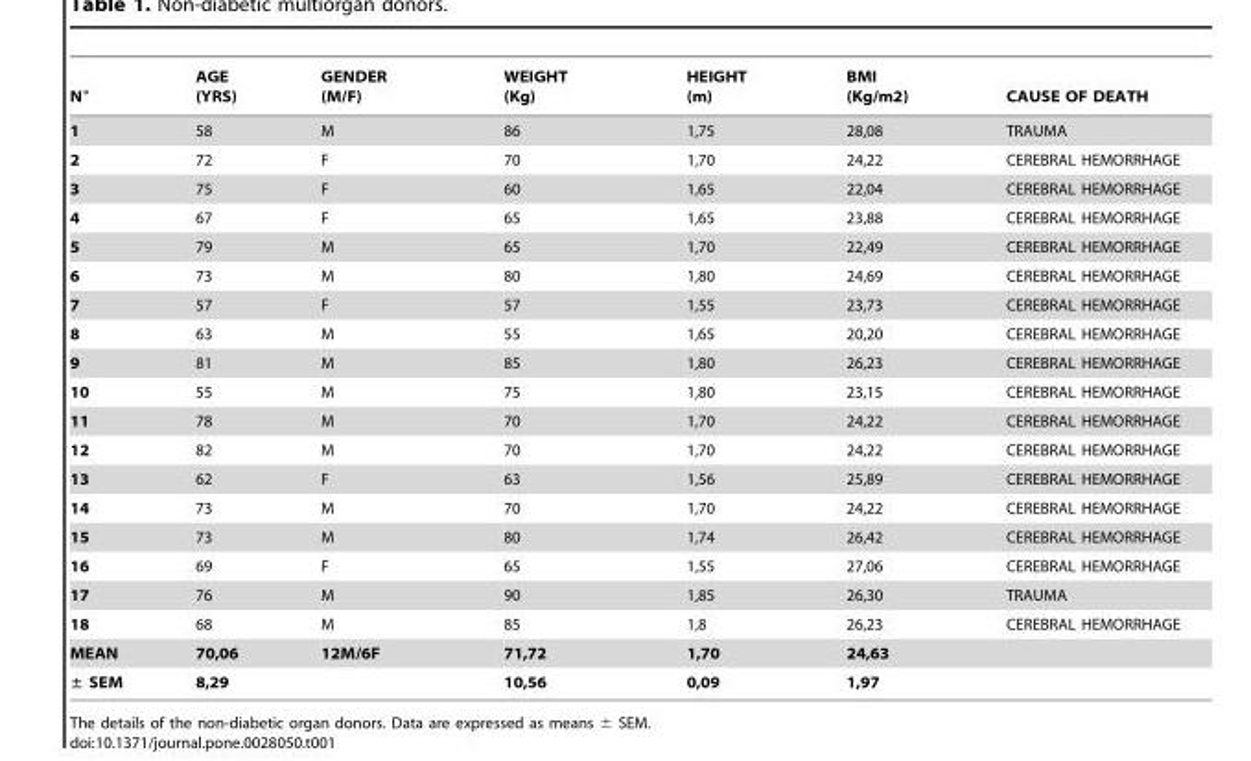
<table><thead><tr><td>N°</td><td>AGE (YRS)</td><td>GENDER (M/F)</td><td>WEIGHT (Kg)</td><td>HEIGHT (m)</td><td>BMI (Kg/m2)</td><td>CAUSE OF DEATH</td></tr></thead><tbody><tr><td>1</td><td>58</td><td>M</td><td>86</td><td>1,75</td><td>28,08</td><td>TRAUMA</td></tr><tr><td>2</td><td>72</td><td>F</td><td>70</td><td>1,70</td><td>24,22</td><td>CEREBRAL HEMORRHAGE</td></tr><tr><td>3</td><td>75</td><td>F</td><td>60</td><td>1,65</td><td>22,04</td><td>CEREBRAL HEMORRHAGE</td></tr><tr><td>4</td><td>67</td><td>F</td><td>65</td><td>1,65</td><td>23,88</td><td>CEREBRAL HEMORRHAGE</td></tr><tr><td>5</td><td>79</td><td>M</td><td>65</td><td>1,70</td><td>22,49</td><td>CEREBRAL HEMORRHAGE</td></tr><tr><td>6</td><td>73</td><td>M</td><td>80</td><td>1,80</td><td>24,69</td><td>CEREBRAL HEMORRHAGE</td></tr><tr><td>7</td><td>57</td><td>F</td><td>57</td><td>1,55</td><td>23,73</td><td>CEREBRAL HEMORRHAGE</td></tr><tr><td>8</td><td>63</td><td>M</td><td>55</td><td>1,65</td><td>20,20</td><td>CEREBRAL HEMORRHAGE</td></tr><tr><td>9</td><td>81</td><td>M</td><td>85</td><td>1,80</td><td>26,23</td><td>CEREBRAL HEMORRHAGE</td></tr><tr><td>10</td><td>55</td><td>M</td><td>75</td><td>1,80</td><td>23,15</td><td>CEREBRAL HEMORRHAGE</td></tr><tr><td>11</td><td>78</td><td>M</td><td>70</td><td>1,70</td><td>24,22</td><td>CEREBRAL HEMORRHAGE</td></tr><tr><td>12</td><td>82</td><td>M</td><td>70</td><td>1,70</td><td>24,22</td><td>CEREBRAL HEMORRHAGE</td></tr><tr><td>13</td><td>62</td><td>F</td><td>63</td><td>1,56</td><td>25,89</td><td>CEREBRAL HEMORRHAGE</td></tr><tr><td>14</td><td>73</td><td>M</td><td>70</td><td>1,70</td><td>24,22</td><td>CEREBRAL HEMORRHAGE</td></tr><tr><td>15</td><td>73</td><td>M</td><td>80</td><td>1,74</td><td>26,42</td><td>CEREBRAL HEMORRHAGE</td></tr><tr><td>16</td><td>69</td><td>F</td><td>65</td><td>1,55</td><td>27,06</td><td>CEREBRAL HEMORRHAGE</td></tr><tr><td>17</td><td>76</td><td>M</td><td>90</td><td>1,85</td><td>26,30</td><td>TRAUMA</td></tr><tr><td>18</td><td>68</td><td>M</td><td>85</td><td>1,8</td><td>26,23</td><td>CEREBRAL HEMORRHAGE</td></tr><tr><td>MEAN</td><td>70,06</td><td>12M/6F</td><td>71,72</td><td>1,70</td><td>24,63</td><td></td></tr><tr><td>± SEM</td><td>8,29</td><td></td><td>10,56</td><td>0,09</td><td>1,97</td><td></td></tr></tbody></table>